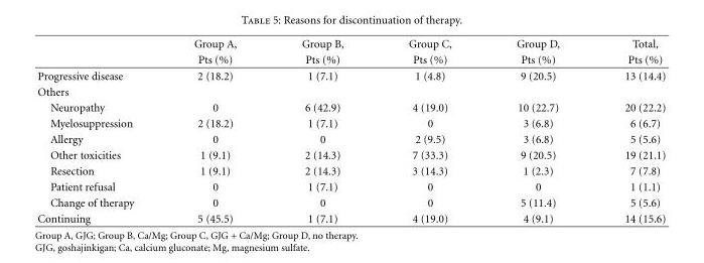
<table><thead><tr><td rowspan="2"></td><td rowspan="2">Group A, Pts (%)</td><td rowspan="2">Group B, Pts (%)</td><td rowspan="2">Group C, Pts (%)</td><td rowspan="2">Group D, Pts (%)</td><td rowspan="2">Total, Pts (%)</td></tr><tr></tr></thead><tbody><tr><td>Progressive disease</td><td>2 (18.2)</td><td>1 (7.1)</td><td>1 (4.8)</td><td>9 (20.5)</td><td>13 (14.4)</td></tr><tr><td colspan="6">Others</td></tr><tr><td>Neuropathy</td><td>0</td><td>6 (42.9)</td><td>4 (19.0)</td><td>10 (22.7)</td><td>20 (22.2)</td></tr><tr><td>Myelosuppression</td><td>2 (18.2)</td><td>1 (7.1)</td><td>0</td><td>3 (6.8)</td><td>6 (6.7)</td></tr><tr><td>Allergy</td><td>0</td><td>0</td><td>2 (9.5)</td><td>3 (6.8)</td><td>5 (5.6)</td></tr><tr><td>Other toxicities</td><td>1 (9.1)</td><td>2 (14.3)</td><td>7 (33.3)</td><td>9 (20.5)</td><td>19 (21.1)</td></tr><tr><td>Resection</td><td>1 (9.1)</td><td>2 (14.3)</td><td>3 (14.3)</td><td>1 (2.3)</td><td>7 (7.8)</td></tr><tr><td>Patient refusal</td><td>0</td><td>1 (7.1)</td><td>0</td><td>0</td><td>1 (1.1)</td></tr><tr><td>Change of therapy</td><td>0</td><td>0</td><td>0</td><td>5 (11.4)</td><td>5 (5.6)</td></tr><tr><td>Continuing</td><td>5 (45.5)</td><td>1 (7.1)</td><td>4 (19.0)</td><td>4 (9.1)</td><td>14 (15.6)</td></tr></tbody></table>